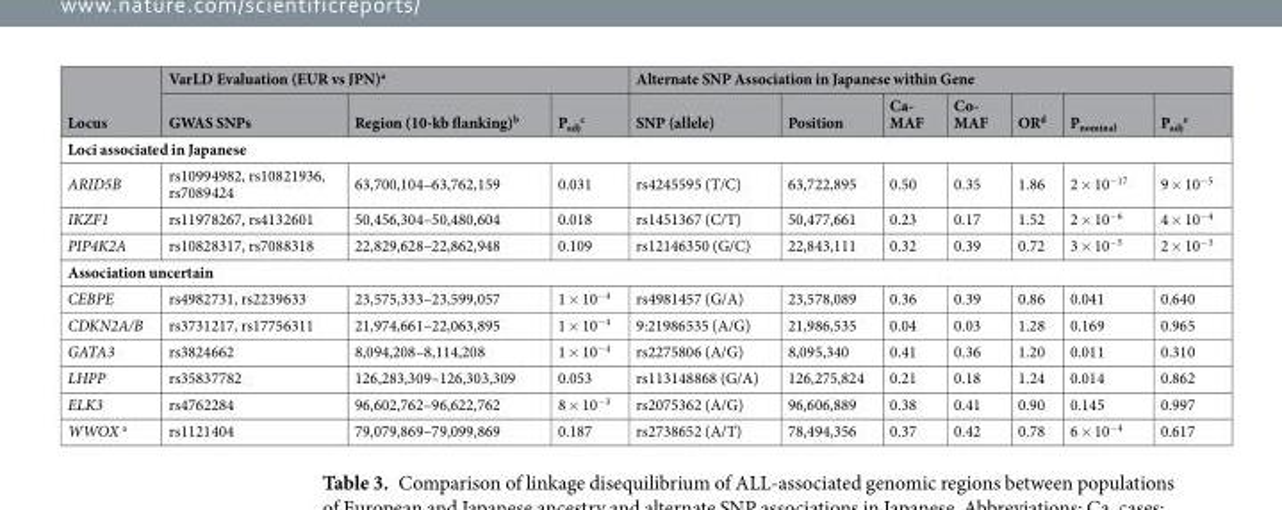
<table><thead><tr><td rowspan="2">Locus</td><td colspan="3">VarLD Evaluation (EUR vs JPN)<sup>a</sup></td><td colspan="7">Alternate SNP Association in Japanese within Gene</td></tr><tr><td>GWAS SNPs</td><td>Region (10-kb flanking)<sup>b</sup></td><td>P<sub>adj</sub> <sup>c</sup></td><td>SNP (allele)</td><td>Position</td><td>Ca- MAF</td><td>Co- MAF</td><td>OR<sup>d</sup></td><td>P<sub>nominal</sub></td><td>P<sub>adj</sub> <sup>e</sup></td></tr></thead><tbody><tr><td colspan="11">Loci associated in Japanese</td></tr><tr><td>ARID5B</td><td>rs10994982, rs10821936, rs7089424</td><td>63,700,104–63,762,159</td><td>0.031</td><td>rs4245595 (T/C)</td><td>63,722,895</td><td>0.50</td><td>0.35</td><td>1.86</td><td>2 × 10<sup>−17</sup></td><td>9 × 10<sup>−5</sup></td></tr><tr><td>IKZF1</td><td>rs11978267, rs4132601</td><td>50,456,304–50,480,604</td><td>0.018</td><td>rs1451367 (C/T)</td><td>50,477,661</td><td>0.23</td><td>0.17</td><td>1.52</td><td>2 × 10<sup>−6</sup></td><td>4 × 10<sup>−4</sup></td></tr><tr><td>PIP4K2A</td><td>rs10828317, rs7088318</td><td>22,829,628–22,862,948</td><td>0.109</td><td>rs12146350 (G/C)</td><td>22,843,111</td><td>0.32</td><td>0.39</td><td>0.72</td><td>3 × 10<sup>−5</sup></td><td>2 × 10<sup>−3</sup></td></tr><tr><td colspan="11">Association uncertain</td></tr><tr><td>CEBPE</td><td>rs4982731, rs2239633</td><td>23,575,333–23,599,057</td><td>1 × 10<sup>−4</sup></td><td>rs4981457 (G/A)</td><td>23,578,089</td><td>0.36</td><td>0.39</td><td>0.86</td><td>0.041</td><td>0.640</td></tr><tr><td>CDKN2A/B</td><td>rs3731217, rs17756311</td><td>21,974,661–22,063,895</td><td>1 × 10<sup>−4</sup></td><td>9:21986535 (A/G)</td><td>21,986,535</td><td>0.04</td><td>0.03</td><td>1.28</td><td>0.169</td><td>0.965</td></tr><tr><td>GATA3</td><td>rs3824662</td><td>8,094,208–8,114,208</td><td>1 × 10<sup>−4</sup></td><td>rs2275806 (A/G)</td><td>8,095,340</td><td>0.41</td><td>0.36</td><td>1.20</td><td>0.011</td><td>0.310</td></tr><tr><td>LHPP</td><td>rs35837782</td><td>126,283,309–126,303,309</td><td>0.053</td><td>rs113148868 (G/A)</td><td>126,275,824</td><td>0.21</td><td>0.18</td><td>1.24</td><td>0.014</td><td>0.862</td></tr><tr><td>ELK3</td><td>rs4762284</td><td>96,602,762–96,622,762</td><td>8 × 10<sup>−3</sup></td><td>rs2075362 (A/G)</td><td>96,606,889</td><td>0.38</td><td>0.41</td><td>0.90</td><td>0.145</td><td>0.997</td></tr><tr><td>WWOX <sup>a</sup></td><td>rs1121404</td><td>79,079,869–79,099,869</td><td>0.187</td><td>rs2738652 (A/T)</td><td>78,494,356</td><td>0.37</td><td>0.42</td><td>0.78</td><td>6 × 10<sup>−4</sup></td><td>0.617</td></tr></tbody></table>